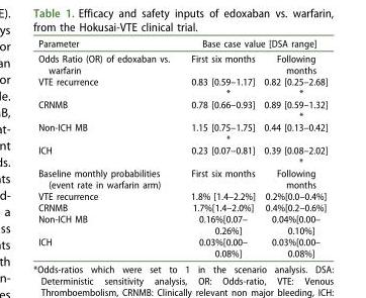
<table><thead><tr><td rowspan="2">Parameter Odds Ratio (OR) of edoxaban vs. warfarin</td><td colspan="2">Base case value [DSA range]</td></tr><tr><td>First six months</td><td>Following months</td></tr></thead><tbody><tr><td>VTE recurrence</td><td>0.83 [0.59–1.17] *</td><td>0.82 [0.25–2.68] *</td></tr><tr><td>CRNMB</td><td>0.78 [0.66–0.93]</td><td>0.89 [0.59–1.32] *</td></tr><tr><td>Non-ICH MB</td><td>1.15 [0.75–1.75] *</td><td>0.44 [0.13–0.42]</td></tr><tr><td>ICH</td><td>0.23 [0.07–0.81]</td><td>0.39 [0.08–2.02] *</td></tr><tr><td>Baseline monthly probabilities (event rate in warfarin arm)</td><td>First six months</td><td>Following months</td></tr><tr><td>VTE recurrence</td><td>1.8% [1.4–2.2%]</td><td>0.2%[0.0–0.4%]</td></tr><tr><td>CRNMB</td><td>1.7%[1.4–2.0%]</td><td>0.4%[0.2–0.6%]</td></tr><tr><td>Non-ICH MB</td><td>0.16%[0.07– 0.26%]</td><td>0.04%[0.00– 0.10%]</td></tr><tr><td>ICH</td><td>0.03%[0.00– 0.08%]</td><td>0.03%[0.00– 0.08%]</td></tr></tbody></table>